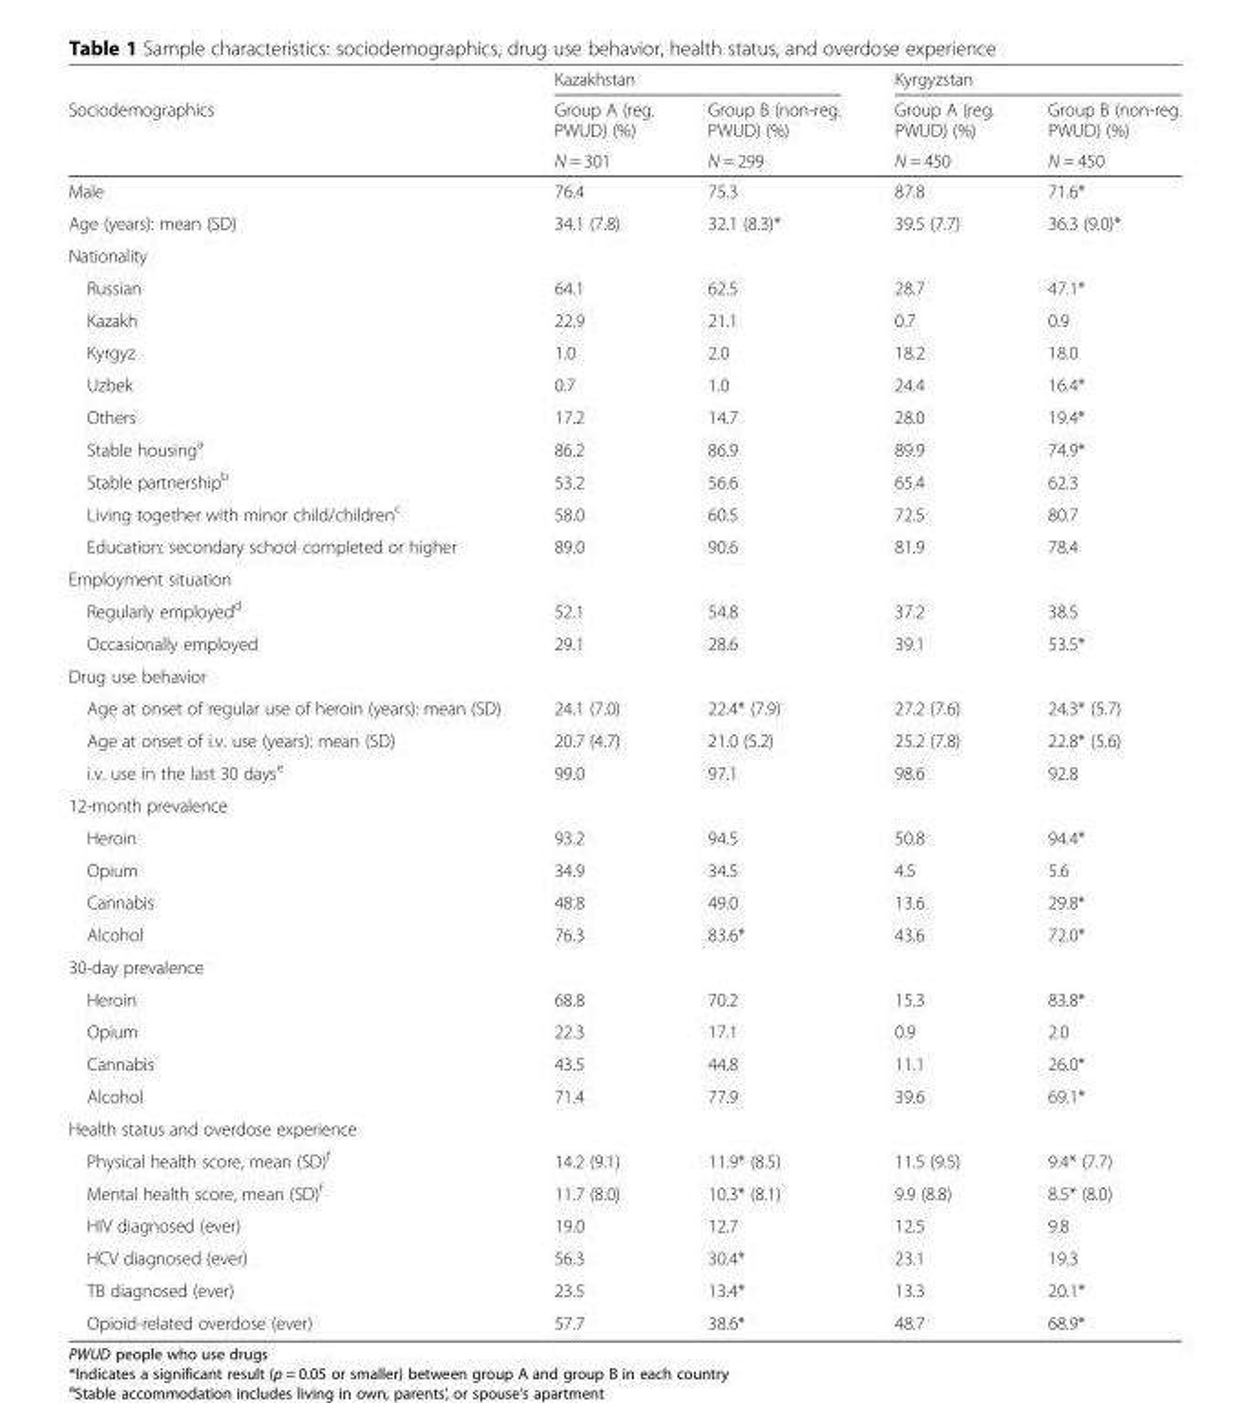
<table><thead><tr><td rowspan="3">Sociodemographics</td><td colspan="2">Kazakhstan</td><td colspan="2">Kyrgyzstan</td></tr><tr><td rowspan="2">Group A (reg. PWUD) (%) N = 301</td><td rowspan="2">Group B (non-reg. PWUD) (%) N = 299</td><td rowspan="2">Group A (reg. PWUD) (%) N = 450</td><td rowspan="2">Group B (non-reg. PWUD) (%) N = 450</td></tr><tr></tr></thead><tbody><tr><td>Male</td><td>76.4</td><td>75.3</td><td>87.8</td><td>71.6*</td></tr><tr><td>Age (years): mean (SD)</td><td>34.1 (7.8)</td><td>32.1 (8.3)*</td><td>39.5 (7.7)</td><td>36.3 (9.0)*</td></tr><tr><td colspan="5">Nationality</td></tr><tr><td>Russian</td><td>64.1</td><td>62.5</td><td>28.7</td><td>47.1*</td></tr><tr><td>Kazakh</td><td>22.9</td><td>21.1</td><td>0.7</td><td>0.9</td></tr><tr><td>Kyrgyz</td><td>1.0</td><td>2.0</td><td>18.2</td><td>18.0</td></tr><tr><td>Uzbek</td><td>0.7</td><td>1.0</td><td>24.4</td><td>16.4*</td></tr><tr><td>Others</td><td>17.2</td><td>14.7</td><td>28.0</td><td>19.4*</td></tr><tr><td>Stable housing<sup>a</sup></td><td>86.2</td><td>86.9</td><td>89.9</td><td>74.9*</td></tr><tr><td>Stable partnership<sup>b</sup></td><td>53.2</td><td>56.6</td><td>65.4</td><td>62.3</td></tr><tr><td>Living together with minor child/children<sup>c</sup></td><td>58.0</td><td>60.5</td><td>72.5</td><td>80.7</td></tr><tr><td>Education: secondary school completed or higher</td><td>89.0</td><td>90.6</td><td>81.9</td><td>78.4</td></tr><tr><td colspan="5">Employment situation</td></tr><tr><td>Regularly employed<sup>d</sup></td><td>52.1</td><td>54.8</td><td>37.2</td><td>38.5</td></tr><tr><td>Occasionally employed</td><td>29.1</td><td>28.6</td><td>39.1</td><td>53.5*</td></tr><tr><td colspan="5">Drug use behavior</td></tr><tr><td>Age at onset of regular use of heroin (years): mean (SD)</td><td>24.1 (7.0)</td><td>22.4* (7.9)</td><td>27.2 (7.6)</td><td>24.3* (5.7)</td></tr><tr><td>Age at onset of i.v. use (years): mean (SD)</td><td>20.7 (4.7)</td><td>21.0 (5.2)</td><td>25.2 (7.8)</td><td>22.8* (5.6)</td></tr><tr><td>i.v. use in the last 30 days<sup>e</sup></td><td>99.0</td><td>97.1</td><td>98.6</td><td>92.8</td></tr><tr><td colspan="5">12-month prevalence</td></tr><tr><td>Heroin</td><td>93.2</td><td>94.5</td><td>50.8</td><td>94.4*</td></tr><tr><td>Opium</td><td>34.9</td><td>34.5</td><td>4.5</td><td>5.6</td></tr><tr><td>Cannabis</td><td>48.8</td><td>49.0</td><td>13.6</td><td>29.8*</td></tr><tr><td>Alcohol</td><td>76.3</td><td>83.6*</td><td>43.6</td><td>72.0*</td></tr><tr><td colspan="5">30-day prevalence</td></tr><tr><td>Heroin</td><td>68.8</td><td>70.2</td><td>15.3</td><td>83.8*</td></tr><tr><td>Opium</td><td>22.3</td><td>17.1</td><td>0.9</td><td>2.0</td></tr><tr><td>Cannabis</td><td>43.5</td><td>44.8</td><td>11.1</td><td>26.0*</td></tr><tr><td>Alcohol</td><td>71.4</td><td>77.9</td><td>39.6</td><td>69.1*</td></tr><tr><td colspan="5">Health status and overdose experience</td></tr><tr><td>Physical health score, mean (SD)<sup>f</sup></td><td>14.2 (9.1)</td><td>11.9* (8.5)</td><td>11.5 (9.5)</td><td>9.4* (7.7)</td></tr><tr><td>Mental health score, mean (SD)<sup>f</sup></td><td>11.7 (8.0)</td><td>10.3* (8.1)</td><td>9.9 (8.8)</td><td>8.5* (8.0)</td></tr><tr><td>HIV diagnosed (ever)</td><td>19.0</td><td>12.7</td><td>12.5</td><td>9.8</td></tr><tr><td>HCV diagnosed (ever)</td><td>56.3</td><td>30.4*</td><td>23.1</td><td>19.3</td></tr><tr><td>TB diagnosed (ever)</td><td>23.5</td><td>13.4*</td><td>13.3</td><td>20.1*</td></tr><tr><td>Opioid-related overdose (ever)</td><td>57.7</td><td>38.6*</td><td>48.7</td><td>68.9*</td></tr></tbody></table>